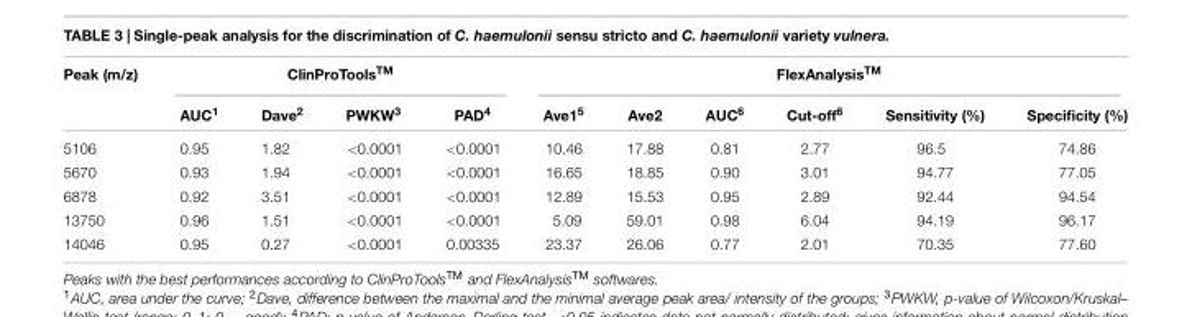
<table><thead><tr><td rowspan="2">Peak (m/z)</td><td colspan="4">ClinProTools<sup>TM</sup></td><td colspan="6">FlexAnalysis<sup>TM</sup></td></tr><tr><td>AUC<sup>1</sup></td><td>Dave<sup>2</sup></td><td>PWKW<sup>3</sup></td><td>PAD<sup>4</sup></td><td>Ave1<sup>5</sup></td><td>Ave2</td><td>AUC<sup>6</sup></td><td>Cut-off<sup>6</sup></td><td>Sensitivity (%)</td><td>Specificity (%)</td></tr></thead><tbody><tr><td>5106</td><td>0.95</td><td>1.82</td><td>&lt;0.0001</td><td>&lt;0.0001</td><td>10.46</td><td>17.88</td><td>0.81</td><td>2.77</td><td>96.5</td><td>74.86</td></tr><tr><td>5670</td><td>0.93</td><td>1.94</td><td>&lt;0.0001</td><td>&lt;0.0001</td><td>16.65</td><td>18.85</td><td>0.90</td><td>3.01</td><td>94.77</td><td>77.05</td></tr><tr><td>6878</td><td>0.92</td><td>3.51</td><td>&lt;0.0001</td><td>&lt;0.0001</td><td>12.89</td><td>15.53</td><td>0.95</td><td>2.89</td><td>92.44</td><td>94.54</td></tr><tr><td>13750</td><td>0.96</td><td>1.51</td><td>&lt;0.0001</td><td>&lt;0.0001</td><td>5.09</td><td>59.01</td><td>0.98</td><td>6.04</td><td>94.19</td><td>96.17</td></tr><tr><td>14046</td><td>0.95</td><td>0.27</td><td>&lt;0.0001</td><td>0.00335</td><td>23.37</td><td>26.06</td><td>0.77</td><td>2.01</td><td>70.35</td><td>77.60</td></tr></tbody></table>